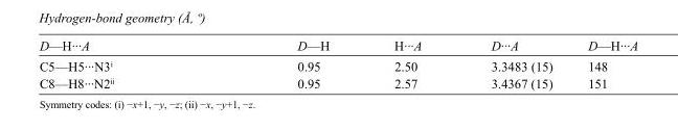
<table><tbody><tr><td>D—H···A</td><td>D—H</td><td>H···A</td><td>D···A</td><td>D—H···A</td></tr><tr><td>C5—H5···N3<sup>i</sup></td><td>0.95</td><td>2.50</td><td>3.3483 (15)</td><td>148</td></tr><tr><td>C8—H8···N2<sup>ii</sup></td><td>0.95</td><td>2.57</td><td>3.4367 (15)</td><td>151</td></tr></tbody></table>